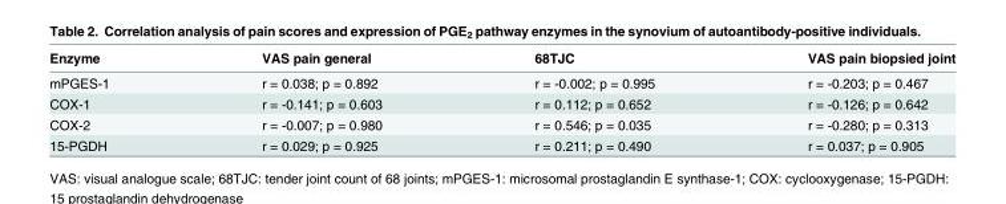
<table><thead><tr><td>Enzyme</td><td>VAS pain general</td><td>68TJC</td><td>VAS pain biopsied joint</td></tr></thead><tbody><tr><td>mPGES-1</td><td>r = 0.038; p = 0.892</td><td>r = -0.002; p = 0.995</td><td>r = -0.203; p = 0.467</td></tr><tr><td>COX-1</td><td>r = -0.141; p = 0.603</td><td>r = 0.112; p = 0.652</td><td>r = -0.126; p = 0.642</td></tr><tr><td>COX-2</td><td>r = -0.007; p = 0.980</td><td>r = 0.546; p = 0.035</td><td>r = -0.280; p = 0.313</td></tr><tr><td>15-PGDH</td><td>r = 0.029; p = 0.925</td><td>r = 0.211; p = 0.490</td><td>r = 0.037; p = 0.905</td></tr></tbody></table>